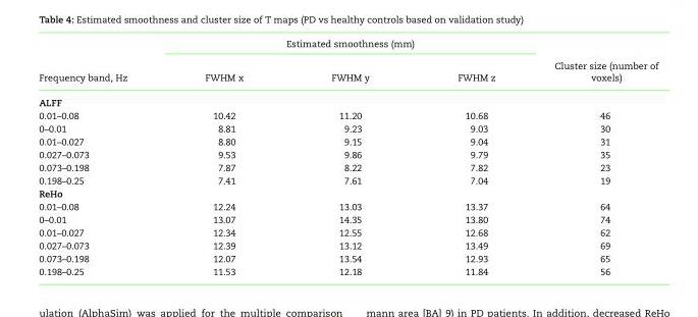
<table><thead><tr><td rowspan="2">Frequency band, Hz</td><td colspan="3">Estimated smoothness (mm)</td><td rowspan="2">Cluster size (number of voxels)</td></tr><tr><td>FWHM x</td><td>FWHM y</td><td>FWHM z</td></tr></thead><tbody><tr><td colspan="5">ALFF</td></tr><tr><td>0.01–0.08</td><td>10.42</td><td>11.20</td><td>10.68</td><td>46</td></tr><tr><td>0–0.01</td><td>8.81</td><td>9.23</td><td>9.03</td><td>30</td></tr><tr><td>0.01–0.027</td><td>8.80</td><td>9.15</td><td>9.04</td><td>31</td></tr><tr><td>0.027–0.073</td><td>9.53</td><td>9.86</td><td>9.79</td><td>35</td></tr><tr><td>0.073–0.198</td><td>7.87</td><td>8.22</td><td>7.82</td><td>23</td></tr><tr><td>0.198–0.25</td><td>7.41</td><td>7.61</td><td>7.04</td><td>19</td></tr><tr><td colspan="5">ReHo</td></tr><tr><td>0.01–0.08</td><td>12.24</td><td>13.03</td><td>13.37</td><td>64</td></tr><tr><td>0–0.01</td><td>13.07</td><td>14.35</td><td>13.80</td><td>74</td></tr><tr><td>0.01–0.027</td><td>12.34</td><td>12.55</td><td>12.68</td><td>62</td></tr><tr><td>0.027–0.073</td><td>12.39</td><td>13.12</td><td>13.49</td><td>69</td></tr><tr><td>0.073–0.198</td><td>12.07</td><td>13.54</td><td>12.93</td><td>65</td></tr><tr><td>0.198–0.25</td><td>11.53</td><td>12.18</td><td>11.84</td><td>56</td></tr></tbody></table>